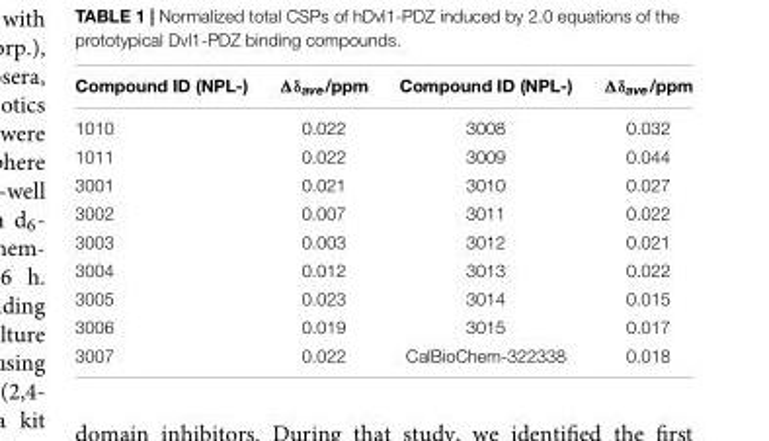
<table><thead><tr><td>Compound ID (NPL-)</td><td>Δδ<sub>ave</sub>/ppm</td><td>Compound ID (NPL-)</td><td>Δδ<sub>ave</sub>/ppm</td></tr></thead><tbody><tr><td>1010</td><td>0.022</td><td>3008</td><td>0.032</td></tr><tr><td>1011</td><td>0.022</td><td>3009</td><td>0.044</td></tr><tr><td>3001</td><td>0.021</td><td>3010</td><td>0.027</td></tr><tr><td>3002</td><td>0.007</td><td>3011</td><td>0.022</td></tr><tr><td>3003</td><td>0.003</td><td>3012</td><td>0.021</td></tr><tr><td>3004</td><td>0.012</td><td>3013</td><td>0.022</td></tr><tr><td>3005</td><td>0.023</td><td>3014</td><td>0.015</td></tr><tr><td>3006</td><td>0.019</td><td>3015</td><td>0.017</td></tr><tr><td>3007</td><td>0.022</td><td>CalBioChem-322338</td><td>0.018</td></tr></tbody></table>